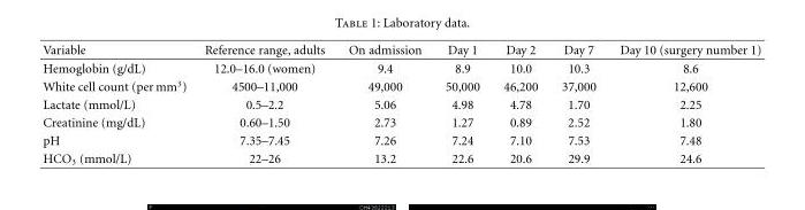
<table><thead><tr><td>Variable</td><td>Reference range, adults</td><td>On admission</td><td>Day 1</td><td>Day 2</td><td>Day 7</td><td>Day 10 (surgery number 1)</td></tr></thead><tbody><tr><td>Hemoglobin (g/dL)</td><td>12.0–16.0 (women)</td><td>9.4</td><td>8.9</td><td>10.0</td><td>10.3</td><td>8.6</td></tr><tr><td>White cell count (per mm<sup>3</sup>)</td><td>4500–11,000</td><td>49,000</td><td>50,000</td><td>46,200</td><td>37,000</td><td>12,600</td></tr><tr><td>Lactate (mmol/L)</td><td>0.5–2.2</td><td>5.06</td><td>4.98</td><td>4.78</td><td>1.70</td><td>2.25</td></tr><tr><td>Creatinine (mg/dL)</td><td>0.60–1.50</td><td>2.73</td><td>1.27</td><td>0.89</td><td>2.52</td><td>1.80</td></tr><tr><td>pH</td><td>7.35–7.45</td><td>7.26</td><td>7.24</td><td>7.10</td><td>7.53</td><td>7.48</td></tr><tr><td>HCO<sub>3</sub> (mmol/L)</td><td>22–26</td><td>13.2</td><td>22.6</td><td>20.6</td><td>29.9</td><td>24.6</td></tr></tbody></table>